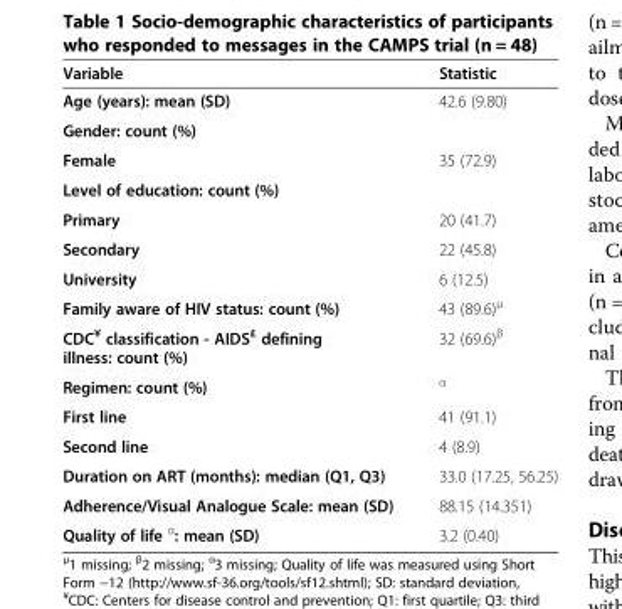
<table><thead><tr><td>Variable</td><td>Statistic</td></tr></thead><tbody><tr><td>Age (years): mean (SD)</td><td>42.6 (9.80)</td></tr><tr><td colspan="2">Gender: count (%)</td></tr><tr><td>Female</td><td>35 (72.9)</td></tr><tr><td colspan="2">Level of education: count (%)</td></tr><tr><td>Primary</td><td>20 (41.7)</td></tr><tr><td>Secondary</td><td>22 (45.8)</td></tr><tr><td>University</td><td>6 (12.5)</td></tr><tr><td>Family aware of HIV status: count (%)</td><td>43 (89.6)<sup>μ</sup></td></tr><tr><td>CDC<sup>¥</sup> classification - AIDS<sup>£</sup> defining illness: count (%)</td><td>32 (69.6)<sup>β</sup></td></tr><tr><td>Regimen: count (%)</td><td><sup>α</sup></td></tr><tr><td>First line</td><td>41 (91.1)</td></tr><tr><td>Second line</td><td>4 (8.9)</td></tr><tr><td>Duration on ART (months): median (Q1, Q3)</td><td>33.0 (17.25, 56.25)</td></tr><tr><td>Adherence/Visual Analogue Scale: mean (SD)</td><td>88.15 (14.351)</td></tr><tr><td>Quality of life <sup>α</sup>: mean (SD)</td><td>3.2 (0.40)</td></tr></tbody></table>